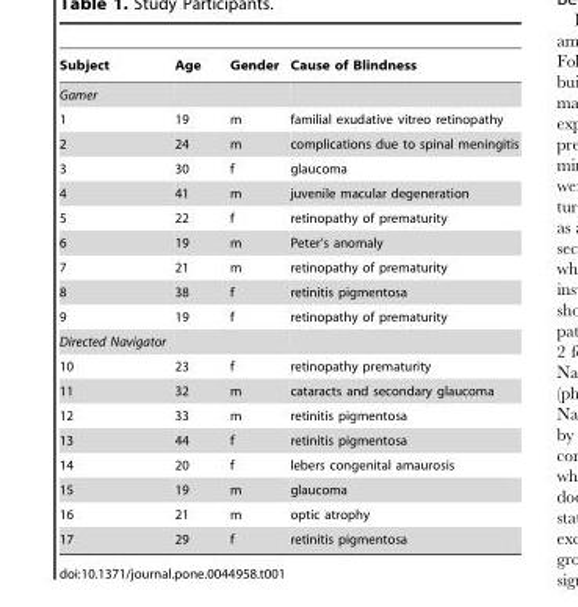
<table><thead><tr><td>Subject</td><td>Age</td><td>Gender</td><td>Cause of Blindness</td></tr></thead><tbody><tr><td colspan="4">Gamer</td></tr><tr><td>1</td><td>19</td><td>m</td><td>familial exudative vitreo retinopathy</td></tr><tr><td>2</td><td>24</td><td>m</td><td>complications due to spinal meningitis</td></tr><tr><td>3</td><td>30</td><td>f</td><td>glaucoma</td></tr><tr><td>4</td><td>41</td><td>m</td><td>juvenile macular degeneration</td></tr><tr><td>5</td><td>22</td><td>f</td><td>retinopathy of prematurity</td></tr><tr><td>6</td><td>19</td><td>m</td><td>Peter’s anomaly</td></tr><tr><td>7</td><td>21</td><td>m</td><td>retinopathy of prematurity</td></tr><tr><td>8</td><td>38</td><td>f</td><td>retinitis pigmentosa</td></tr><tr><td>9</td><td>19</td><td>f</td><td>retinopathy of prematurity</td></tr><tr><td colspan="4">Directed Navigator</td></tr><tr><td>10</td><td>23</td><td>f</td><td>retinopathy prematurity</td></tr><tr><td>11</td><td>32</td><td>m</td><td>cataracts and secondary glaucoma</td></tr><tr><td>12</td><td>33</td><td>m</td><td>retinitis pigmentosa</td></tr><tr><td>13</td><td>44</td><td>f</td><td>retinitis pigmentosa</td></tr><tr><td>14</td><td>20</td><td>f</td><td>lebers congenital amaurosis</td></tr><tr><td>15</td><td>19</td><td>m</td><td>glaucoma</td></tr><tr><td>16</td><td>21</td><td>m</td><td>optic atrophy</td></tr><tr><td>17</td><td>29</td><td>f</td><td>retinitis pigmentosa</td></tr></tbody></table>